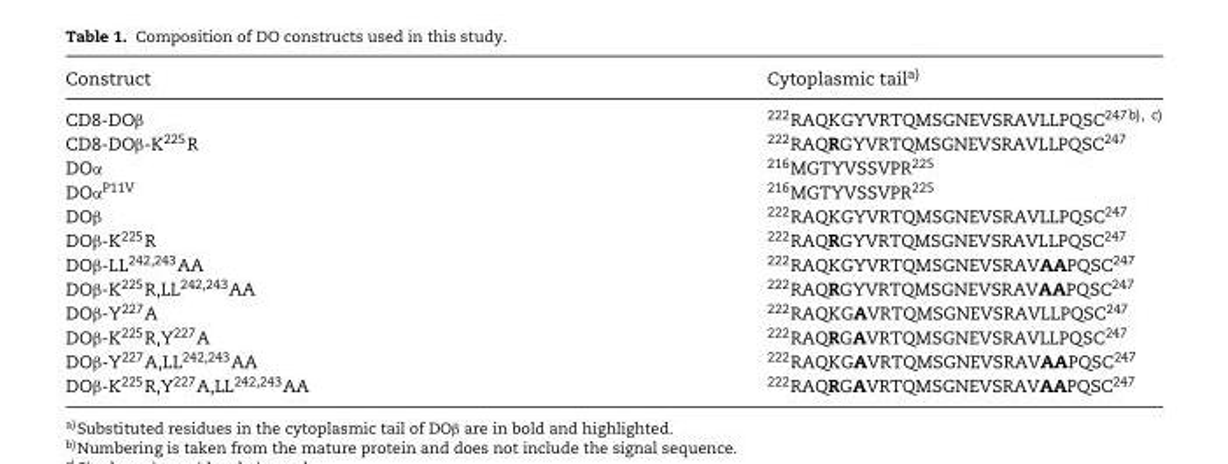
<table><thead><tr><td>Construct</td><td>Cytoplasmic taila)</td></tr></thead><tbody><tr><td>CD8-DOβ</td><td><sup>222</sup>RAQKGYVRTQMSGNEVSRAVLLPQSC<sup>247</sup>b), c)</td></tr><tr><td>CD8-DOβ-K<sup>225</sup>R</td><td><sup>222</sup>RAQRGYVRTQMSGNEVSRAVLLPQSC<sup>247</sup></td></tr><tr><td>DOα</td><td><sup>216</sup>MGTYVSSVPR<sup>225</sup></td></tr><tr><td>DOα<sup>P11V</sup></td><td><sup>216</sup>MGTYVSSVPR<sup>225</sup></td></tr><tr><td>DOβ</td><td><sup>222</sup>RAQKGYVRTQMSGNEVSRAVLLPQSC<sup>247</sup></td></tr><tr><td>DOβ-K<sup>225</sup>R</td><td><sup>222</sup>RAQRGYVRTQMSGNEVSRAVLLPQSC<sup>247</sup></td></tr><tr><td>DOβ-LL<sup>242,243</sup>AA</td><td><sup>222</sup>RAQKGYVRTQMSGNEVSRAVAAPQSC<sup>247</sup></td></tr><tr><td>DOβ-K<sup>225</sup>R,LL<sup>242,243</sup>AA</td><td><sup>222</sup>RAQRGYVRTQMSGNEVSRAVAAPQSC<sup>247</sup></td></tr><tr><td>DOβ-Y<sup>227</sup>A</td><td><sup>222</sup>RAQKGAVRTQMSGNEVSRAVLLPQSC<sup>247</sup></td></tr><tr><td>DOβ-K<sup>225</sup>R,Y<sup>227</sup>A</td><td><sup>222</sup>RAQRGAVRTQMSGNEVSRAVLLPQSC<sup>247</sup></td></tr><tr><td>DOβ-Y<sup>227</sup>A,LL<sup>242,243</sup>AA</td><td><sup>222</sup>RAQKGAVRTQMSGNEVSRAVAAPQSC<sup>247</sup></td></tr><tr><td>DOβ-K<sup>225</sup>R,Y<sup>227</sup>A,LL<sup>242,243</sup>AA</td><td><sup>222</sup>RAQRGAVRTQMSGNEVSRAVAAPQSC<sup>247</sup></td></tr></tbody></table>